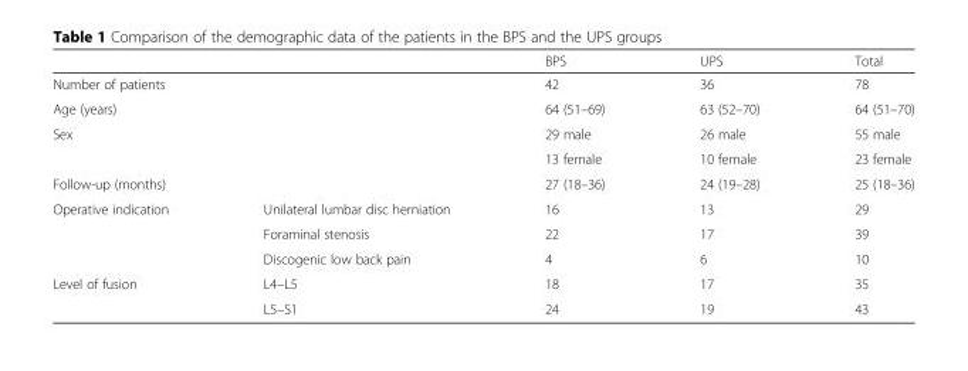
<table><thead><tr><td></td><td></td><td>BPS</td><td>UPS</td><td>Total</td></tr></thead><tbody><tr><td colspan="2">Number of patients</td><td>42</td><td>36</td><td>78</td></tr><tr><td colspan="2">Age (years)</td><td>64 (51–69)</td><td>63 (52–70)</td><td>64 (51–70)</td></tr><tr><td rowspan="2" colspan="2">Sex</td><td>29 male</td><td>26 male</td><td>55 male</td></tr><tr><td>13 female</td><td>10 female</td><td>23 female</td></tr><tr><td colspan="2">Follow-up (months)</td><td>27 (18–36)</td><td>24 (19–28)</td><td>25 (18–36)</td></tr><tr><td rowspan="3">Operative indication</td><td>Unilateral lumbar disc herniation</td><td>16</td><td>13</td><td>29</td></tr><tr><td>Foraminal stenosis</td><td>22</td><td>17</td><td>39</td></tr><tr><td>Discogenic low back pain</td><td>4</td><td>6</td><td>10</td></tr><tr><td rowspan="2">Level of fusion</td><td>L4–L5</td><td>18</td><td>17</td><td>35</td></tr><tr><td>L5–S1</td><td>24</td><td>19</td><td>43</td></tr></tbody></table>